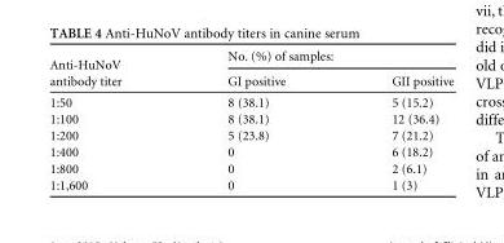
<table><thead><tr><td rowspan="2">Anti-HuNoV antibody titer</td><td colspan="2">No. (%) of samples:</td></tr><tr><td>GI positive</td><td>GII positive</td></tr></thead><tbody><tr><td>1:50</td><td>8 (38.1)</td><td>5 (15.2)</td></tr><tr><td>1:100</td><td>8 (38.1)</td><td>12 (36.4)</td></tr><tr><td>1:200</td><td>5 (23.8)</td><td>7 (21.2)</td></tr><tr><td>1:400</td><td>0</td><td>6 (18.2)</td></tr><tr><td>1:800</td><td>0</td><td>2 (6.1)</td></tr><tr><td>1:1,600</td><td>0</td><td>1 (3)</td></tr></tbody></table>